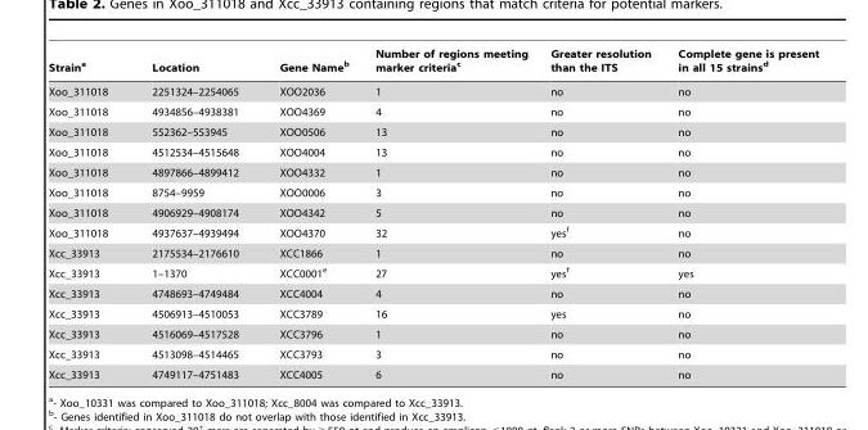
<table><thead><tr><td>Strain<sup>a</sup></td><td>Location</td><td>Gene Name<sup>b</sup></td><td>Number of regions meeting marker criteria<sup>c</sup></td><td>Greater resolution than the ITS</td><td>Complete gene is present in all 15 strains<sup>d</sup></td></tr></thead><tbody><tr><td>Xoo_311018</td><td>2251324–2254065</td><td>XOO2036</td><td>1</td><td>no</td><td>no</td></tr><tr><td>Xoo_311018</td><td>4934856–4938381</td><td>XOO4369</td><td>4</td><td>no</td><td>no</td></tr><tr><td>Xoo_311018</td><td>552362–553945</td><td>XOO0506</td><td>13</td><td>no</td><td>no</td></tr><tr><td>Xoo_311018</td><td>4512534–4515648</td><td>XOO4004</td><td>13</td><td>no</td><td>no</td></tr><tr><td>Xoo_311018</td><td>4897866–4899412</td><td>XOO4332</td><td>1</td><td>no</td><td>no</td></tr><tr><td>Xoo_311018</td><td>8754–9959</td><td>XOO0006</td><td>3</td><td>no</td><td>no</td></tr><tr><td>Xoo_311018</td><td>4906929–4908174</td><td>XOO4342</td><td>5</td><td>no</td><td>no</td></tr><tr><td>Xoo_311018</td><td>4937637–4939494</td><td>XOO4370</td><td>32</td><td>yes<sup>f</sup></td><td>no</td></tr><tr><td>Xcc_33913</td><td>2175534–2176610</td><td>XCC1866</td><td>1</td><td>no</td><td>no</td></tr><tr><td>Xcc_33913</td><td>1–1370</td><td>XCC0001<sup>e</sup></td><td>27</td><td>yes<sup>f</sup></td><td>yes</td></tr><tr><td>Xcc_33913</td><td>4748693–4749484</td><td>XCC4004</td><td>4</td><td>no</td><td>no</td></tr><tr><td>Xcc_33913</td><td>4506913–4510053</td><td>XCC3789</td><td>16</td><td>yes</td><td>no</td></tr><tr><td>Xcc_33913</td><td>4516069–4517528</td><td>XCC3796</td><td>1</td><td>no</td><td>no</td></tr><tr><td>Xcc_33913</td><td>4513098–4514465</td><td>XCC3793</td><td>3</td><td>no</td><td>no</td></tr><tr><td>Xcc_33913</td><td>4749117–4751483</td><td>XCC4005</td><td>6</td><td>no</td><td>no</td></tr></tbody></table>